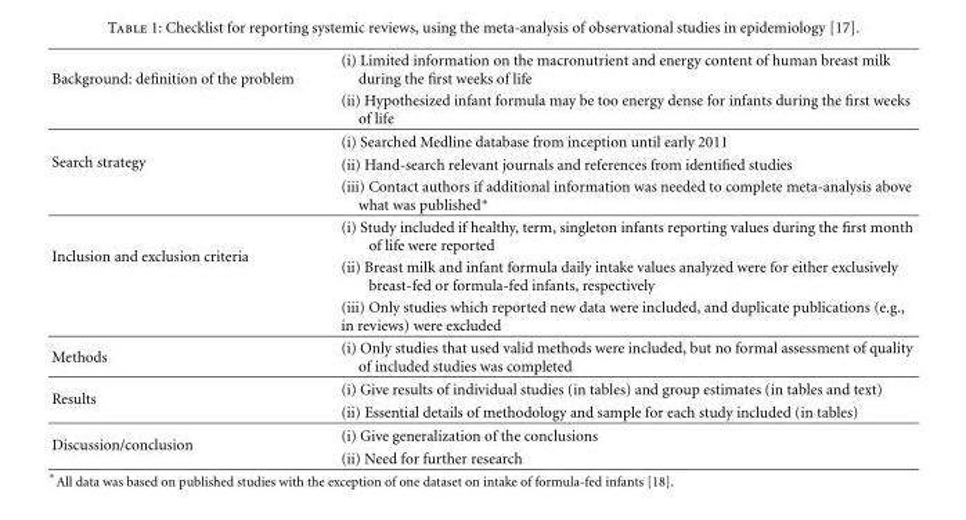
<table><tbody><tr><td rowspan="2">Background: definition of the problem</td><td>(i) Limited information on the macronutrient and energy content of human breast milk during the first weeks of life</td></tr><tr><td>(ii) Hypothesized infant formula may be too energy dense for infants during the first weeks of life</td></tr><tr><td rowspan="3">Search strategy</td><td>(i) Searched Medline database from inception until early 2011</td></tr><tr><td>(ii) Hand-search relevant journals and references from identified studies</td></tr><tr><td>(iii) Contact authors if additional information was needed to complete meta-analysis above what was published∗</td></tr><tr><td rowspan="3">Inclusion and exclusion criteria</td><td>(i) Study included if healthy, term, singleton infants reporting values during the first month of life were reported</td></tr><tr><td>(ii) Breast milk and infant formula daily intake values analyzed were for either exclusively breast-fed or formula-fed infants, respectively</td></tr><tr><td>(iii) Only studies which reported new data were included, and duplicate publications (e.g., in reviews) were excluded</td></tr><tr><td>Methods</td><td>(i) Only studies that used valid methods were included, but no formal assessment of quality of included studies was completed</td></tr><tr><td rowspan="2">Results</td><td>(i) Give results of individual studies (in tables) and group estimates (in tables and text)</td></tr><tr><td>(ii) Essential details of methodology and sample for each study included (in tables)</td></tr><tr><td rowspan="2">Discussion/conclusion</td><td>(i) Give generalization of the conclusions</td></tr><tr><td>(ii) Need for further research</td></tr></tbody></table>